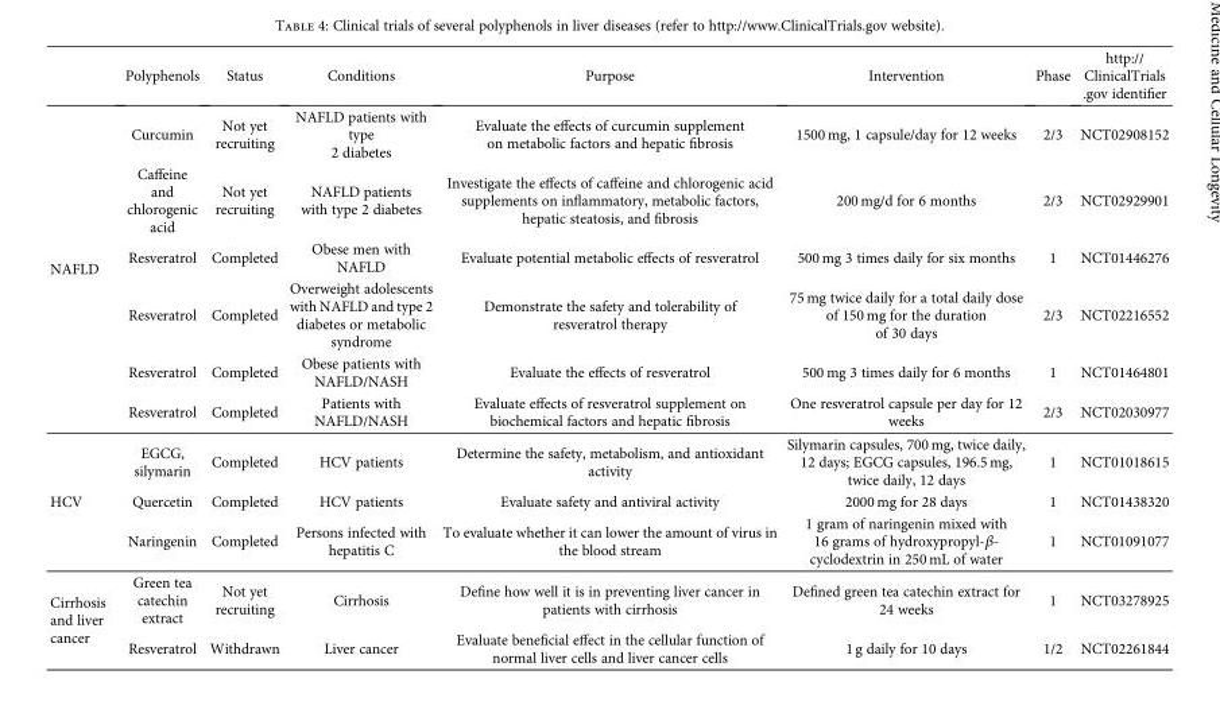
<table><thead><tr><td></td><td>Polyphenols</td><td>Status</td><td>Conditions</td><td>Purpose</td><td>Intervention</td><td>Phase</td><td>http:// ClinicalTrials .gov identifier</td></tr></thead><tbody><tr><td rowspan="6">NAFLD</td><td>Curcumin</td><td>Not yet recruiting</td><td>NAFLD patients with type 2 diabetes</td><td>Evaluate the effects of curcumin supplement on metabolic factors and hepatic fibrosis</td><td>1500 mg, 1 capsule/day for 12 weeks</td><td>2/3</td><td>NCT02908152</td></tr><tr><td>Caffeine and chlorogenic acid</td><td>Not yet recruiting</td><td>NAFLD patients with type 2 diabetes</td><td>Investigate the effects of caffeine and chlorogenic acid supplements on inflammatory, metabolic factors, hepatic steatosis, and fibrosis</td><td>200 mg/d for 6 months</td><td>2/3</td><td>NCT02929901</td></tr><tr><td>Resveratrol</td><td>Completed</td><td>Obese men with NAFLD</td><td>Evaluate potential metabolic effects of resveratrol</td><td>500 mg 3 times daily for six months</td><td>1</td><td>NCT01446276</td></tr><tr><td>Resveratrol</td><td>Completed</td><td>Overweight adolescents with NAFLD and type 2 diabetes or metabolic syndrome</td><td>Demonstrate the safety and tolerability of resveratrol therapy</td><td>75 mg twice daily for a total daily dose of 150 mg for the duration of 30 days</td><td>2/3</td><td>NCT02216552</td></tr><tr><td>Resveratrol</td><td>Completed</td><td>Obese patients with NAFLD/NASH</td><td>Evaluate the effects of resveratrol</td><td>500 mg 3 times daily for 6 months</td><td>1</td><td>NCT01464801</td></tr><tr><td>Resveratrol</td><td>Completed</td><td>Patients with NAFLD/NASH</td><td>Evaluate effects of resveratrol supplement on biochemical factors and hepatic fibrosis</td><td>One resveratrol capsule per day for 12 weeks</td><td>2/3</td><td>NCT02030977</td></tr><tr><td rowspan="3">HCV</td><td>EGCG, silymarin</td><td>Completed</td><td>HCV patients</td><td>Determine the safety, metabolism, and antioxidant activity</td><td>Silymarin capsules, 700 mg, twice daily, 12 days; EGCG capsules, 196.5 mg, twice daily, 12 days</td><td>1</td><td>NCT01018615</td></tr><tr><td>Quercetin</td><td>Completed</td><td>HCV patients</td><td>Evaluate safety and antiviral activity</td><td>2000 mg for 28 days</td><td>1</td><td>NCT01438320</td></tr><tr><td>Naringenin</td><td>Completed</td><td>Persons infected with hepatitis C</td><td>To evaluate whether it can lower the amount of virus in the blood stream</td><td>1 gram of naringenin mixed with 16 grams of hydroxypropyl-β- cyclodextrin in 250 mL of water</td><td>1</td><td>NCT01091077</td></tr><tr><td rowspan="2">Cirrhosis and liver cancer</td><td>Green tea catechin extract</td><td>Not yet recruiting</td><td>Cirrhosis</td><td>Define how well it is in preventing liver cancer in patients with cirrhosis</td><td>Defined green tea catechin extract for 24 weeks</td><td>1</td><td>NCT03278925</td></tr><tr><td>Resveratrol</td><td>Withdrawn</td><td>Liver cancer</td><td>Evaluate beneficial effect in the cellular function of normal liver cells and liver cancer cells</td><td>1 g daily for 10 days</td><td>1/2</td><td>NCT02261844</td></tr></tbody></table>